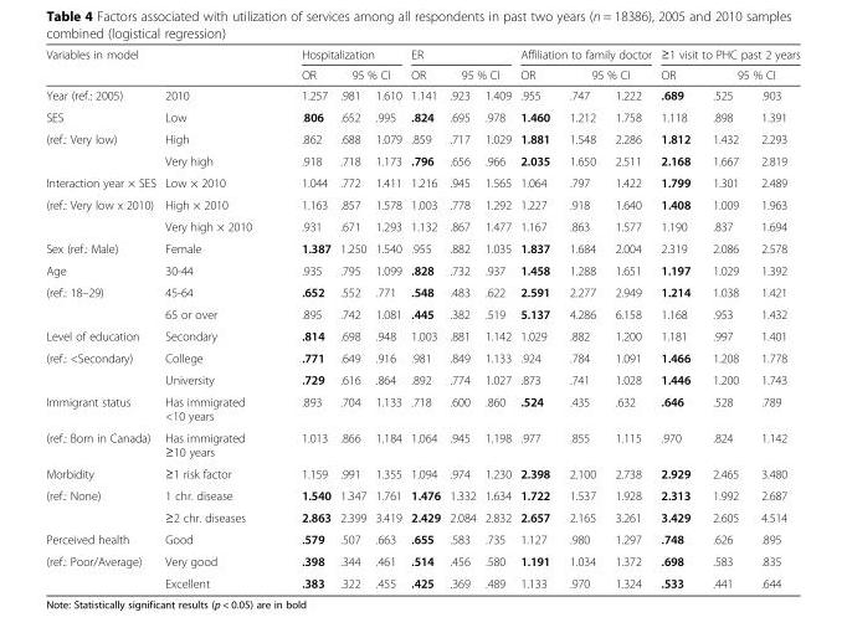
<table><thead><tr><td rowspan="3">Variables in model Year (ref.: 2005)</td><td rowspan="3">2010</td><td colspan="3">Hospitalization</td><td colspan="3">ER</td><td colspan="3">Affiliation to family doctor</td><td colspan="3">≥1 visit to PHC past 2 years</td></tr><tr><td rowspan="2">OR 1.257</td><td colspan="2">95 % CI</td><td rowspan="2">OR 1.141</td><td colspan="2">95 % CI</td><td rowspan="2">OR .955</td><td colspan="2">95 % CI</td><td rowspan="2">OR .689</td><td colspan="2">95 % CI</td></tr><tr><td>.981</td><td>1.610</td><td>.923</td><td>1.409</td><td>.747</td><td>1.222</td><td>.525</td><td>.903</td></tr></thead><tbody><tr><td>SES</td><td>Low</td><td>.806</td><td>.652</td><td>.995</td><td>.824</td><td>.695</td><td>.978</td><td>1.460</td><td>1.212</td><td>1.758</td><td>1.118</td><td>.898</td><td>1.391</td></tr><tr><td rowspan="2">(ref.: Very low)</td><td>High</td><td>.862</td><td>.688</td><td>1.079</td><td>.859</td><td>.717</td><td>1.029</td><td>1.881</td><td>1.548</td><td>2.286</td><td>1.812</td><td>1.432</td><td>2.293</td></tr><tr><td>Very high</td><td>.918</td><td>.718</td><td>1.173</td><td>.796</td><td>.656</td><td>.966</td><td>2.035</td><td>1.650</td><td>2.511</td><td>2.168</td><td>1.667</td><td>2.819</td></tr><tr><td>Interaction year × SES</td><td>Low × 2010</td><td>1.044</td><td>.772</td><td>1.411</td><td>1.216</td><td>.945</td><td>1.565</td><td>1.064</td><td>.797</td><td>1.422</td><td>1.799</td><td>1.301</td><td>2.489</td></tr><tr><td rowspan="2">(ref.: Very low x 2010)</td><td>High × 2010</td><td>1.163</td><td>.857</td><td>1.578</td><td>1.003</td><td>.778</td><td>1.292</td><td>1.227</td><td>.918</td><td>1.640</td><td>1.408</td><td>1.009</td><td>1.963</td></tr><tr><td>Very high × 2010</td><td>.931</td><td>.671</td><td>1.293</td><td>1.132</td><td>.867</td><td>1.477</td><td>1.167</td><td>.863</td><td>1.577</td><td>1.190</td><td>.837</td><td>1.694</td></tr><tr><td>Sex (ref.: Male)</td><td>Female</td><td>1.387</td><td>1.250</td><td>1.540</td><td>.955</td><td>.882</td><td>1.035</td><td>1.837</td><td>1.684</td><td>2.004</td><td>2.319</td><td>2.086</td><td>2.578</td></tr><tr><td>Age</td><td>30-44</td><td>.935</td><td>.795</td><td>1.099</td><td>.828</td><td>.732</td><td>.937</td><td>1.458</td><td>1.288</td><td>1.651</td><td>1.197</td><td>1.029</td><td>1.392</td></tr><tr><td rowspan="2">(ref.: 18–29)</td><td>45-64</td><td>.652</td><td>.552</td><td>.771</td><td>.548</td><td>.483</td><td>.622</td><td>2.591</td><td>2.277</td><td>2.949</td><td>1.214</td><td>1.038</td><td>1.421</td></tr><tr><td>65 or over</td><td>.895</td><td>.742</td><td>1.081</td><td>.445</td><td>.382</td><td>.519</td><td>5.137</td><td>4.286</td><td>6.158</td><td>1.168</td><td>.953</td><td>1.432</td></tr><tr><td>Level of education</td><td>Secondary</td><td>.814</td><td>.698</td><td>.948</td><td>1.003</td><td>.881</td><td>1.142</td><td>1.029</td><td>.882</td><td>1.200</td><td>1.181</td><td>.997</td><td>1.401</td></tr><tr><td rowspan="2">(ref.: &lt;Secondary)</td><td>College</td><td>.771</td><td>.649</td><td>.916</td><td>.981</td><td>.849</td><td>1.133</td><td>.924</td><td>.784</td><td>1.091</td><td>1.466</td><td>1.208</td><td>1.778</td></tr><tr><td>University</td><td>.729</td><td>.616</td><td>.864</td><td>.892</td><td>.774</td><td>1.027</td><td>.873</td><td>.741</td><td>1.028</td><td>1.446</td><td>1.200</td><td>1.743</td></tr><tr><td>Immigrant status</td><td>Has immigrated &lt;10 years</td><td>.893</td><td>.704</td><td>1.133</td><td>.718</td><td>.600</td><td>.860</td><td>.524</td><td>.435</td><td>.632</td><td>.646</td><td>.528</td><td>.789</td></tr><tr><td>(ref.: Born in Canada)</td><td>Has immigrated ≥10 years</td><td>1.013</td><td>.866</td><td>1.184</td><td>1.064</td><td>.945</td><td>1.198</td><td>.977</td><td>.855</td><td>1.115</td><td>.970</td><td>.824</td><td>1.142</td></tr><tr><td>Morbidity</td><td>≥1 risk factor</td><td>1.159</td><td>.991</td><td>1.355</td><td>1.094</td><td>.974</td><td>1.230</td><td>2.398</td><td>2.100</td><td>2.738</td><td>2.929</td><td>2.465</td><td>3.480</td></tr><tr><td rowspan="2">(ref.: None)</td><td>1 chr. disease</td><td>1.540</td><td>1.347</td><td>1.761</td><td>1.476</td><td>1.332</td><td>1.634</td><td>1.722</td><td>1.537</td><td>1.928</td><td>2.313</td><td>1.992</td><td>2.687</td></tr><tr><td>≥2 chr. diseases</td><td>2.863</td><td>2.399</td><td>3.419</td><td>2.429</td><td>2.084</td><td>2.832</td><td>2.657</td><td>2.165</td><td>3.261</td><td>3.429</td><td>2.605</td><td>4.514</td></tr><tr><td>Perceived health</td><td>Good</td><td>.579</td><td>.507</td><td>.663</td><td>.655</td><td>.583</td><td>.735</td><td>1.127</td><td>.980</td><td>1.297</td><td>.748</td><td>.626</td><td>.895</td></tr><tr><td rowspan="2">(ref.: Poor/Average)</td><td>Very good</td><td>.398</td><td>.344</td><td>.461</td><td>.514</td><td>.456</td><td>.580</td><td>1.191</td><td>1.034</td><td>1.372</td><td>.698</td><td>.583</td><td>.835</td></tr><tr><td>Excellent</td><td>.383</td><td>.322</td><td>.455</td><td>.425</td><td>.369</td><td>.489</td><td>1.133</td><td>.970</td><td>1.324</td><td>.533</td><td>.441</td><td>.644</td></tr></tbody></table>